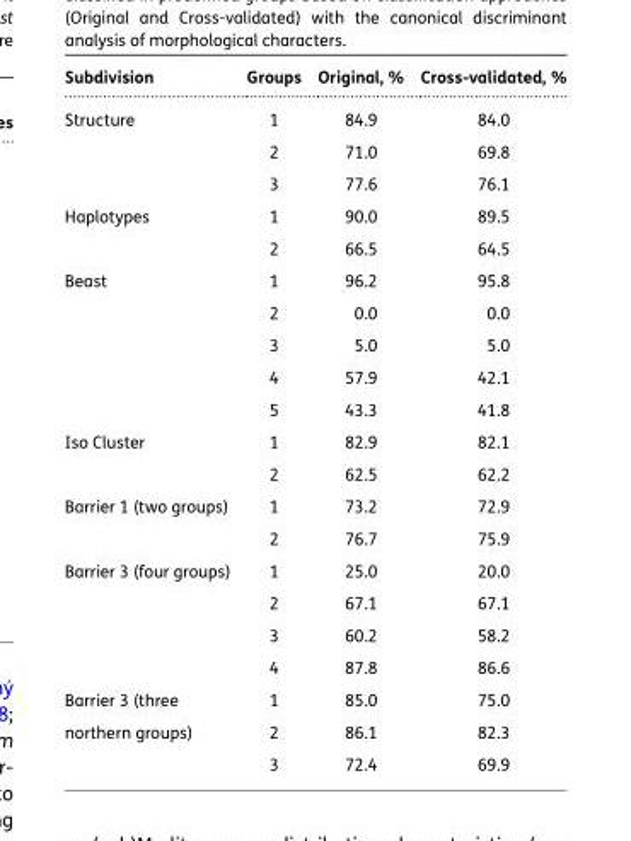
<table><thead><tr><td>Subdivision</td><td>Groups</td><td>Original, %</td><td>Cross-validated, %</td></tr></thead><tbody><tr><td rowspan="3">Structure</td><td>1</td><td>84.9</td><td>84.0</td></tr><tr><td>2</td><td>71.0</td><td>69.8</td></tr><tr><td>3</td><td>77.6</td><td>76.1</td></tr><tr><td rowspan="2">Haplotypes</td><td>1</td><td>90.0</td><td>89.5</td></tr><tr><td>2</td><td>66.5</td><td>64.5</td></tr><tr><td rowspan="5">Beast</td><td>1</td><td>96.2</td><td>95.8</td></tr><tr><td>2</td><td>0.0</td><td>0.0</td></tr><tr><td>3</td><td>5.0</td><td>5.0</td></tr><tr><td>4</td><td>57.9</td><td>42.1</td></tr><tr><td>5</td><td>43.3</td><td>41.8</td></tr><tr><td rowspan="2">Iso Cluster</td><td>1</td><td>82.9</td><td>82.1</td></tr><tr><td>2</td><td>62.5</td><td>62.2</td></tr><tr><td rowspan="2">Barrier 1 (two groups)</td><td>1</td><td>73.2</td><td>72.9</td></tr><tr><td>2</td><td>76.7</td><td>75.9</td></tr><tr><td rowspan="4">Barrier 3 (four groups)</td><td>1</td><td>25.0</td><td>20.0</td></tr><tr><td>2</td><td>67.1</td><td>67.1</td></tr><tr><td>3</td><td>60.2</td><td>58.2</td></tr><tr><td>4</td><td>87.8</td><td>86.6</td></tr><tr><td rowspan="3">Barrier 3 (three northern groups)</td><td>1</td><td>85.0</td><td>75.0</td></tr><tr><td>2</td><td>86.1</td><td>82.3</td></tr><tr><td>3</td><td>72.4</td><td>69.9</td></tr></tbody></table>